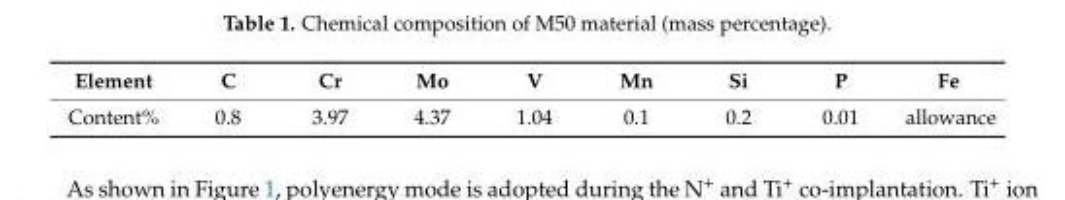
<table><thead><tr><td>Element</td><td>C</td><td>Cr</td><td>Mo</td><td>V</td><td>Mn</td><td>Si</td><td>P</td><td>Fe</td></tr></thead><tbody><tr><td>Content%</td><td>0.8</td><td>3.97</td><td>4.37</td><td>1.04</td><td>0.1</td><td>0.2</td><td>0.01</td><td>allowance</td></tr></tbody></table>